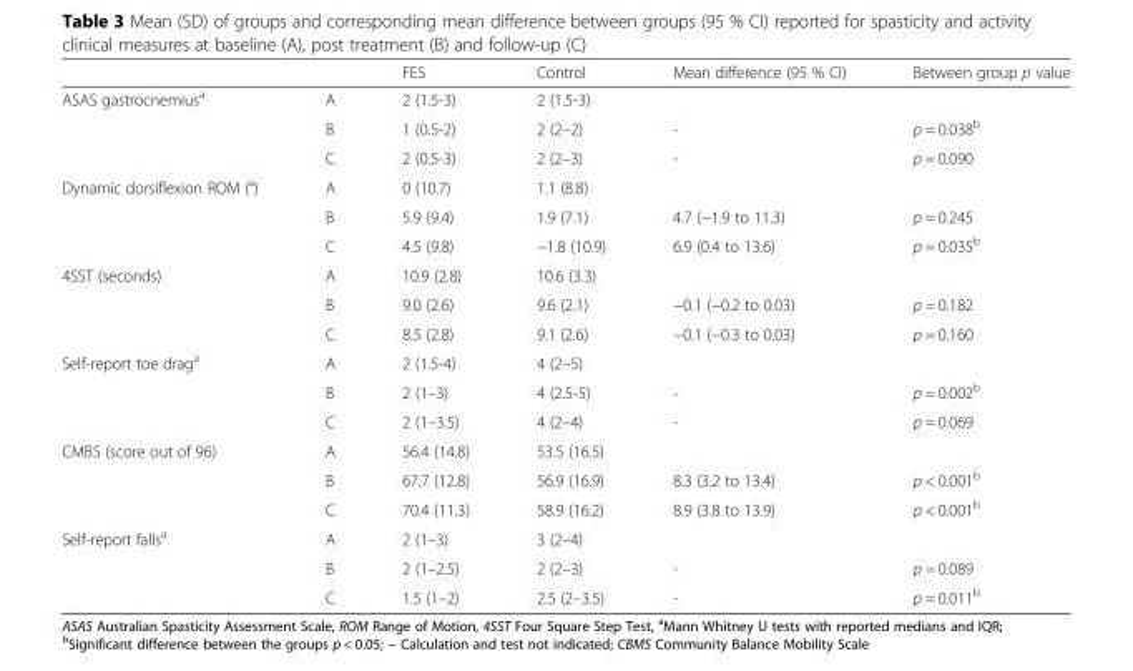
<table><thead><tr><td></td><td></td><td>FES</td><td>Control</td><td>Mean difference (95 % CI)</td><td>Between group p value</td></tr></thead><tbody><tr><td rowspan="3">ASAS gastrocnemius<sup>a</sup></td><td>A</td><td>2 (1.5-3)</td><td>2 (1.5-3)</td><td></td><td></td></tr><tr><td>B</td><td>1 (0.5-2)</td><td>2 (2–2)</td><td>-</td><td>p = 0.038<sup>b</sup></td></tr><tr><td>C</td><td>2 (0.5-3)</td><td>2 (2–3)</td><td>-</td><td>p = 0.090</td></tr><tr><td rowspan="3">Dynamic dorsiflexion ROM (°)</td><td>A</td><td>0 (10.7)</td><td>1.1 (8.8)</td><td></td><td></td></tr><tr><td>B</td><td>5.9 (9.4)</td><td>1.9 (7.1)</td><td>4.7 (−1.9 to 11.3)</td><td>p = 0.245</td></tr><tr><td>C</td><td>4.5 (9.8)</td><td>−1.8 (10.9)</td><td>6.9 (0.4 to 13.6)</td><td>p = 0.035<sup>b</sup></td></tr><tr><td rowspan="3">4SST (seconds)</td><td>A</td><td>10.9 (2.8)</td><td>10.6 (3.3)</td><td></td><td></td></tr><tr><td>B</td><td>9.0 (2.6)</td><td>9.6 (2.1)</td><td>−0.1 (−0.2 to 0.03)</td><td>p = 0.182</td></tr><tr><td>C</td><td>8.5 (2.8)</td><td>9.1 (2.6)</td><td>−0.1 (−0.3 to 0.03)</td><td>p = 0.160</td></tr><tr><td rowspan="3">Self-report toe drag<sup>a</sup></td><td>A</td><td>2 (1.5-4)</td><td>4 (2–5)</td><td></td><td></td></tr><tr><td>B</td><td>2 (1–3)</td><td>4 (2.5-5)</td><td>-</td><td>p = 0.002<sup>b</sup></td></tr><tr><td>C</td><td>2 (1–3.5)</td><td>4 (2–4)</td><td>-</td><td>p = 0.069</td></tr><tr><td rowspan="3">CMBS (score out of 96)</td><td>A</td><td>56.4 (14.8)</td><td>53.5 (16.5)</td><td></td><td></td></tr><tr><td>B</td><td>67.7 (12.8)</td><td>56.9 (16.9)</td><td>8.3 (3.2 to 13.4)</td><td>p &lt; 0.001<sup>b</sup></td></tr><tr><td>C</td><td>70.4 (11.3)</td><td>58.9 (16.2)</td><td>8.9 (3.8 to 13.9)</td><td>p &lt; 0.001<sup>b</sup></td></tr><tr><td rowspan="3">Self-report falls<sup>a</sup></td><td>A</td><td>2 (1–3)</td><td>3 (2–4)</td><td></td><td></td></tr><tr><td>B</td><td>2 (1–2.5)</td><td>2 (2–3)</td><td>-</td><td>p = 0.089</td></tr><tr><td>C</td><td>1.5 (1–2)</td><td>2.5 (2–3.5)</td><td>-</td><td>p = 0.011<sup>b</sup></td></tr></tbody></table>